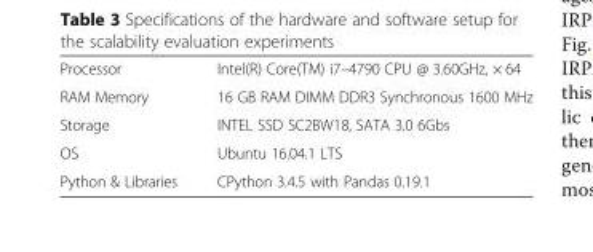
<table><tbody><tr><td>Processor</td><td>Intel(R) Core(TM) i7–4790 CPU @ 3.60GHz, × 64</td></tr><tr><td>RAM Memory</td><td>16 GB RAM DIMM DDR3 Synchronous 1600 MHz</td></tr><tr><td>Storage</td><td>INTEL SSD SC2BW18, SATA 3.0 6Gbs</td></tr><tr><td>OS</td><td>Ubuntu 16.04.1 LTS</td></tr><tr><td>Python &amp; Libraries</td><td>CPython 3.4.5 with Pandas 0.19.1</td></tr></tbody></table>